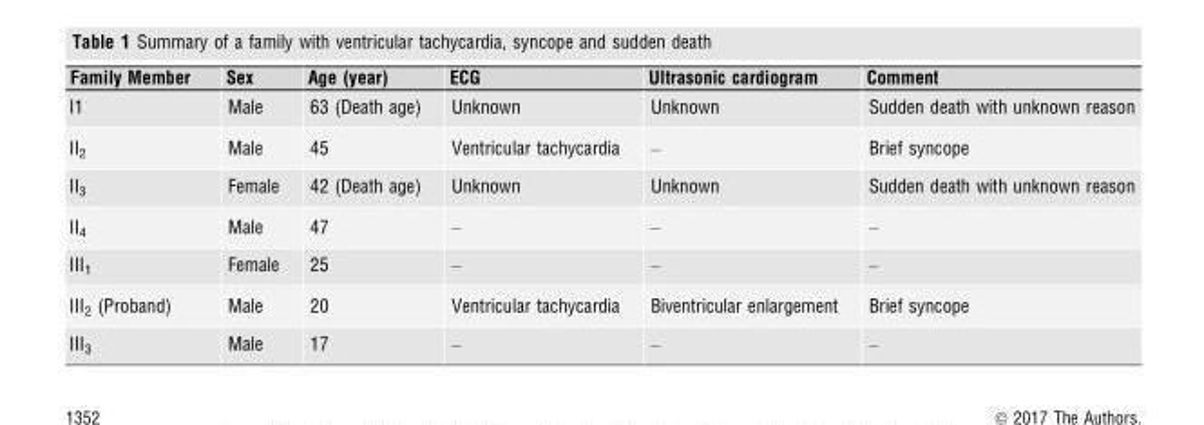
<table><thead><tr><td>Family Member</td><td>Sex</td><td>Age (year)</td><td>ECG</td><td>Ultrasonic cardiogram</td><td>Comment</td></tr></thead><tbody><tr><td>I1</td><td>Male</td><td>63 (Death age)</td><td>Unknown</td><td>Unknown</td><td>Sudden death with unknown reason</td></tr><tr><td>II<sub>2</sub></td><td>Male</td><td>45</td><td>Ventricular tachycardia</td><td>–</td><td>Brief syncope</td></tr><tr><td>II<sub>3</sub></td><td>Female</td><td>42 (Death age)</td><td>Unknown</td><td>Unknown</td><td>Sudden death with unknown reason</td></tr><tr><td>II<sub>4</sub></td><td>Male</td><td>47</td><td>–</td><td>–</td><td>–</td></tr><tr><td>III<sub>1</sub></td><td>Female</td><td>25</td><td>–</td><td>–</td><td>–</td></tr><tr><td>III<sub>2</sub> (Proband)</td><td>Male</td><td>20</td><td>Ventricular tachycardia</td><td>Biventricular enlargement</td><td>Brief syncope</td></tr><tr><td>III<sub>3</sub></td><td>Male</td><td>17</td><td>–</td><td>–</td><td>–</td></tr></tbody></table>